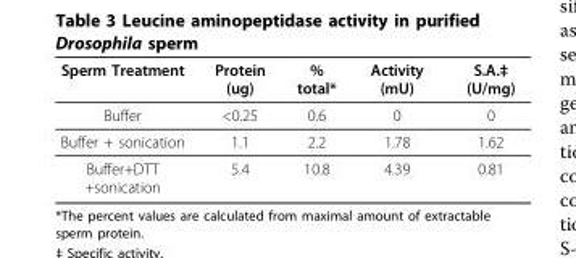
<table><thead><tr><td>Sperm Treatment</td><td>Protein (ug)</td><td>% total*</td><td>Activity (mU)</td><td>S.A.‡ (U/mg)</td></tr></thead><tbody><tr><td>Buffer</td><td>&lt;0.25</td><td>0.6</td><td>0</td><td>0</td></tr><tr><td>Buffer + sonication</td><td>1.1</td><td>2.2</td><td>1.78</td><td>1.62</td></tr><tr><td>Buffer+DTT +sonication</td><td>5.4</td><td>10.8</td><td>4.39</td><td>0.81</td></tr></tbody></table>